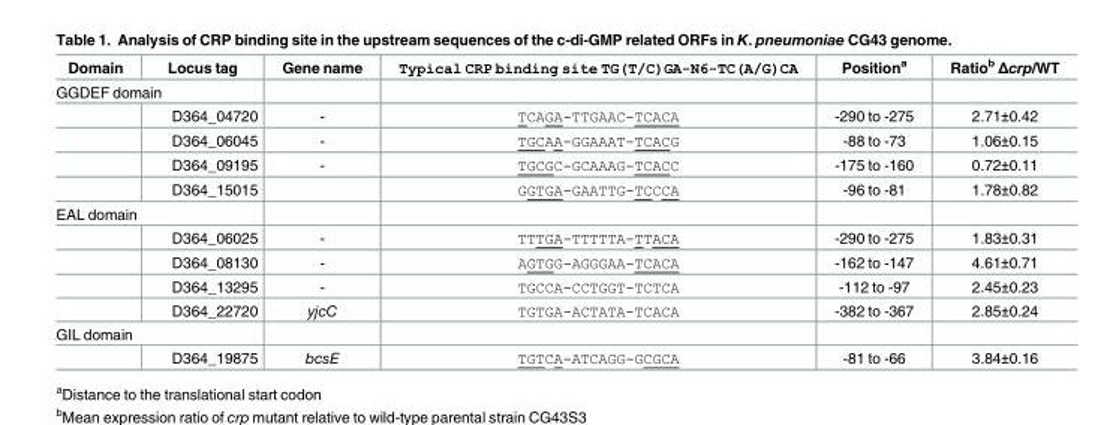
<table><thead><tr><td>Domain</td><td>Locus tag</td><td>Gene name</td><td>Typical CRP binding site TG(T/C)GA-N6-TC(A/G)CA</td><td>Position<sup>a</sup></td><td>Ratio<sup>b</sup> Δcrp/WT</td></tr></thead><tbody><tr><td colspan="6">GGDEF domain</td></tr><tr><td></td><td>D364_04720</td><td>-</td><td>TCAGA-TTGAAC-TCACA</td><td>-290 to -275</td><td>2.71±0.42</td></tr><tr><td></td><td>D364_06045</td><td>-</td><td>TGCAA-GGAAAT-TCACG</td><td>-88 to -73</td><td>1.06±0.15</td></tr><tr><td></td><td>D364_09195</td><td>-</td><td>TGCGC-GCAAAG-TCACC</td><td>-175 to -160</td><td>0.72±0.11</td></tr><tr><td></td><td>D364_15015</td><td></td><td>GGTGA-GAATTG-TCCCA</td><td>-96 to -81</td><td>1.78±0.82</td></tr><tr><td colspan="6">EAL domain</td></tr><tr><td></td><td>D364_06025</td><td>-</td><td>TTTGA-TTTTTA-TTACA</td><td>-290 to -275</td><td>1.83±0.31</td></tr><tr><td></td><td>D364_08130</td><td>-</td><td>AGTGG-AGGGAA-TCACA</td><td>-162 to -147</td><td>4.61±0.71</td></tr><tr><td></td><td>D364_13295</td><td>-</td><td>TGCCA-CCTGGT-TCTCA</td><td>-112 to -97</td><td>2.45±0.23</td></tr><tr><td></td><td>D364_22720</td><td>yjcC</td><td>TGTGA-ACTATA-TCACA</td><td>-382 to -367</td><td>2.85±0.24</td></tr><tr><td colspan="6">GIL domain</td></tr><tr><td></td><td>D364_19875</td><td>bcsE</td><td>TGTCA-ATCAGG-GCGCA</td><td>-81 to -66</td><td>3.84±0.16</td></tr></tbody></table>